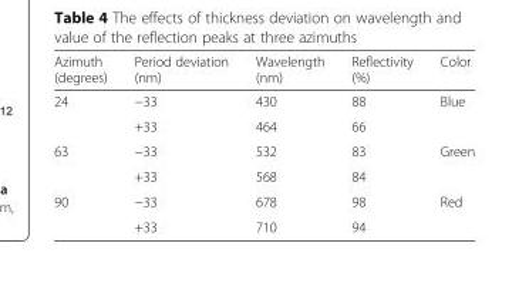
<table><thead><tr><td>Azimuth (degrees)</td><td>Period deviation (nm)</td><td>Wavelength (nm)</td><td>Reflectivity (%)</td><td>Color</td></tr></thead><tbody><tr><td rowspan="2">24</td><td>−33</td><td>430</td><td>88</td><td rowspan="2">Blue</td></tr><tr><td>+33</td><td>464</td><td>66</td></tr><tr><td rowspan="2">63</td><td>−33</td><td>532</td><td>83</td><td rowspan="2">Green</td></tr><tr><td>+33</td><td>568</td><td>84</td></tr><tr><td rowspan="2">90</td><td>−33</td><td>678</td><td>98</td><td rowspan="2">Red</td></tr><tr><td>+33</td><td>710</td><td>94</td></tr></tbody></table>